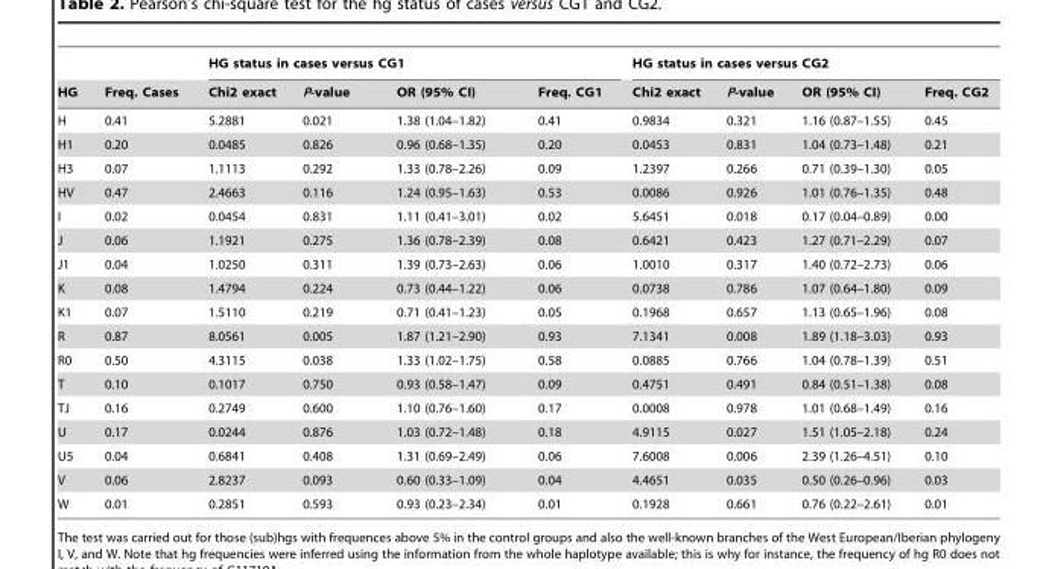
<table><thead><tr><td rowspan="2">HG</td><td rowspan="2">Freq. Cases</td><td colspan="4">HG status in cases versus CG1</td><td colspan="4">HG status in cases versus CG2</td></tr><tr><td>Chi2 exact</td><td>P-value</td><td>OR (95% CI)</td><td>Freq. CG1</td><td>Chi2 exact</td><td>P-value</td><td>OR (95% CI)</td><td>Freq. CG2</td></tr></thead><tbody><tr><td>H</td><td>0.41</td><td>5.2881</td><td>0.021</td><td>1.38 (1.04–1.82)</td><td>0.41</td><td>0.9834</td><td>0.321</td><td>1.16 (0.87–1.55)</td><td>0.45</td></tr><tr><td>H1</td><td>0.20</td><td>0.0485</td><td>0.826</td><td>0.96 (0.68–1.35)</td><td>0.20</td><td>0.0453</td><td>0.831</td><td>1.04 (0.73–1.48)</td><td>0.21</td></tr><tr><td>H3</td><td>0.07</td><td>1.1113</td><td>0.292</td><td>1.33 (0.78–2.26)</td><td>0.09</td><td>1.2397</td><td>0.266</td><td>0.71 (0.39–1.30)</td><td>0.05</td></tr><tr><td>HV</td><td>0.47</td><td>2.4663</td><td>0.116</td><td>1.24 (0.95–1.63)</td><td>0.53</td><td>0.0086</td><td>0.926</td><td>1.01 (0.76–1.35)</td><td>0.48</td></tr><tr><td>I</td><td>0.02</td><td>0.0454</td><td>0.831</td><td>1.11 (0.41–3.01)</td><td>0.02</td><td>5.6451</td><td>0.018</td><td>0.17 (0.04–0.89)</td><td>0.00</td></tr><tr><td>J</td><td>0.06</td><td>1.1921</td><td>0.275</td><td>1.36 (0.78–2.39)</td><td>0.08</td><td>0.6421</td><td>0.423</td><td>1.27 (0.71–2.29)</td><td>0.07</td></tr><tr><td>J1</td><td>0.04</td><td>1.0250</td><td>0.311</td><td>1.39 (0.73–2.63)</td><td>0.06</td><td>1.0010</td><td>0.317</td><td>1.40 (0.72–2.73)</td><td>0.06</td></tr><tr><td>K</td><td>0.08</td><td>1.4794</td><td>0.224</td><td>0.73 (0.44–1.22)</td><td>0.06</td><td>0.0738</td><td>0.786</td><td>1.07 (0.64–1.80)</td><td>0.09</td></tr><tr><td>K1</td><td>0.07</td><td>1.5110</td><td>0.219</td><td>0.71 (0.41–1.23)</td><td>0.05</td><td>0.1968</td><td>0.657</td><td>1.13 (0.65–1.96)</td><td>0.08</td></tr><tr><td>R</td><td>0.87</td><td>8.0561</td><td>0.005</td><td>1.87 (1.21–2.90)</td><td>0.93</td><td>7.1341</td><td>0.008</td><td>1.89 (1.18–3.03)</td><td>0.93</td></tr><tr><td>R0</td><td>0.50</td><td>4.3115</td><td>0.038</td><td>1.33 (1.02–1.75)</td><td>0.58</td><td>0.0885</td><td>0.766</td><td>1.04 (0.78–1.39)</td><td>0.51</td></tr><tr><td>T</td><td>0.10</td><td>0.1017</td><td>0.750</td><td>0.93 (0.58–1.47)</td><td>0.09</td><td>0.4751</td><td>0.491</td><td>0.84 (0.51–1.38)</td><td>0.08</td></tr><tr><td>TJ</td><td>0.16</td><td>0.2749</td><td>0.600</td><td>1.10 (0.76–1.60)</td><td>0.17</td><td>0.0008</td><td>0.978</td><td>1.01 (0.68–1.49)</td><td>0.16</td></tr><tr><td>U</td><td>0.17</td><td>0.0244</td><td>0.876</td><td>1.03 (0.72–1.48)</td><td>0.18</td><td>4.9115</td><td>0.027</td><td>1.51 (1.05–2.18)</td><td>0.24</td></tr><tr><td>U5</td><td>0.04</td><td>0.6841</td><td>0.408</td><td>1.31 (0.69–2.49)</td><td>0.06</td><td>7.6008</td><td>0.006</td><td>2.39 (1.26–4.51)</td><td>0.10</td></tr><tr><td>V</td><td>0.06</td><td>2.8237</td><td>0.093</td><td>0.60 (0.33–1.09)</td><td>0.04</td><td>4.4651</td><td>0.035</td><td>0.50 (0.26–0.96)</td><td>0.03</td></tr><tr><td>W</td><td>0.01</td><td>0.2851</td><td>0.593</td><td>0.93 (0.23–2.34)</td><td>0.01</td><td>0.1928</td><td>0.661</td><td>0.76 (0.22–2.61)</td><td>0.01</td></tr></tbody></table>